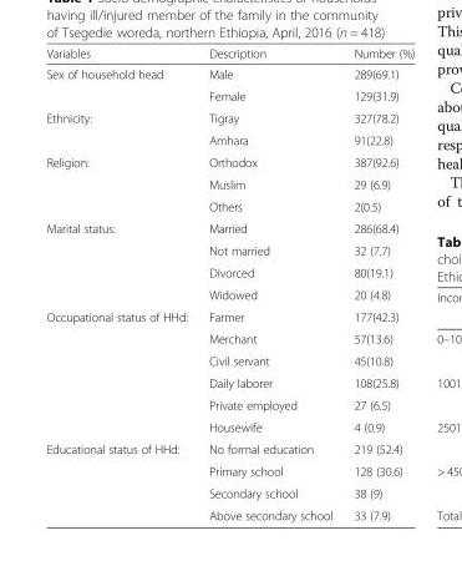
<table><thead><tr><td>Variables</td><td>Description</td><td>Number (%)</td></tr></thead><tbody><tr><td rowspan="2">Sex of household head</td><td>Male</td><td>289(69.1)</td></tr><tr><td>Female</td><td>129(31.9)</td></tr><tr><td rowspan="2">Ethnicity:</td><td>Tigray</td><td>327(78.2)</td></tr><tr><td>Amhara</td><td>91(22.8)</td></tr><tr><td rowspan="3">Religion:</td><td>Orthodox</td><td>387(92.6)</td></tr><tr><td>Muslim</td><td>29 (6.9)</td></tr><tr><td>Others</td><td>2(0.5)</td></tr><tr><td rowspan="4">Marital status:</td><td>Married</td><td>286(68.4)</td></tr><tr><td>Not married</td><td>32 (7.7)</td></tr><tr><td>Divorced</td><td>80(19.1)</td></tr><tr><td>Widowed</td><td>20 (4.8)</td></tr><tr><td rowspan="6">Occupational status of HHd:</td><td>Farmer</td><td>177(42.3)</td></tr><tr><td>Merchant</td><td>57(13.6)</td></tr><tr><td>Civil servant</td><td>45(10.8)</td></tr><tr><td>Daily laborer</td><td>108(25.8)</td></tr><tr><td>Private employed</td><td>27 (6.5)</td></tr><tr><td>Housewife</td><td>4 (0.9)</td></tr><tr><td rowspan="4">Educational status of HHd:</td><td>No formal education</td><td>219 (52.4)</td></tr><tr><td>Primary school</td><td>128 (30.6)</td></tr><tr><td>Secondary school</td><td>38 (9)</td></tr><tr><td>Above secondary school</td><td>33 (7.9)</td></tr></tbody></table>